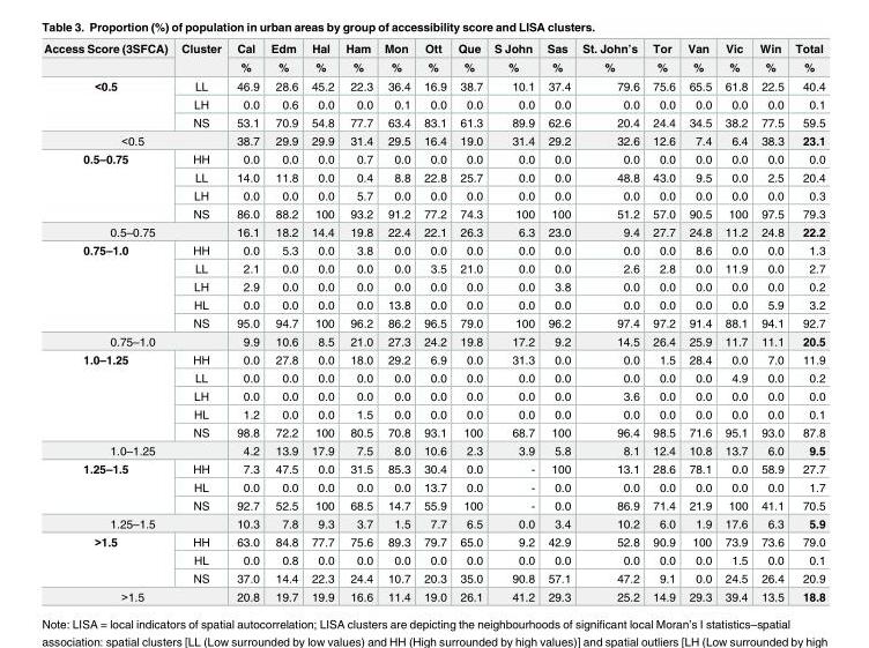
<table><thead><tr><td rowspan="2">Access Score (3SFCA)</td><td rowspan="2">Cluster</td><td rowspan="2">Cal %</td><td rowspan="2">Edm %</td><td rowspan="2">Hal %</td><td rowspan="2">Ham %</td><td rowspan="2">Mon %</td><td rowspan="2">Ott %</td><td rowspan="2">Que %</td><td rowspan="2">S John %</td><td rowspan="2">Sas %</td><td rowspan="2">St. John’s %</td><td rowspan="2">Tor %</td><td rowspan="2">Van %</td><td rowspan="2">Vic %</td><td rowspan="2">Win %</td><td rowspan="2">Total %</td></tr><tr></tr></thead><tbody><tr><td rowspan="3">&lt;0.5</td><td>LL</td><td>46.9</td><td>28.6</td><td>45.2</td><td>22.3</td><td>36.4</td><td>16.9</td><td>38.7</td><td>10.1</td><td>37.4</td><td>79.6</td><td>75.6</td><td>65.5</td><td>61.8</td><td>22.5</td><td>40.4</td></tr><tr><td>LH</td><td>0.0</td><td>0.6</td><td>0.0</td><td>0.0</td><td>0.1</td><td>0.0</td><td>0.0</td><td>0.0</td><td>0.0</td><td>0.0</td><td>0.0</td><td>0.0</td><td>0.0</td><td>0.0</td><td>0.1</td></tr><tr><td>NS</td><td>53.1</td><td>70.9</td><td>54.8</td><td>77.7</td><td>63.4</td><td>83.1</td><td>61.3</td><td>89.9</td><td>62.6</td><td>20.4</td><td>24.4</td><td>34.5</td><td>38.2</td><td>77.5</td><td>59.5</td></tr><tr><td colspan="2">&lt;0.5</td><td>38.7</td><td>29.9</td><td>29.9</td><td>31.4</td><td>29.5</td><td>16.4</td><td>19.0</td><td>31.4</td><td>29.2</td><td>32.6</td><td>12.6</td><td>7.4</td><td>6.4</td><td>38.3</td><td>23.1</td></tr><tr><td rowspan="4">0.5–0.75</td><td>HH</td><td>0.0</td><td>0.0</td><td>0.0</td><td>0.7</td><td>0.0</td><td>0.0</td><td>0.0</td><td>0.0</td><td>0.0</td><td>0.0</td><td>0.0</td><td>0.0</td><td>0.0</td><td>0.0</td><td>0.0</td></tr><tr><td>LL</td><td>14.0</td><td>11.8</td><td>0.0</td><td>0.4</td><td>8.8</td><td>22.8</td><td>25.7</td><td>0.0</td><td>0.0</td><td>48.8</td><td>43.0</td><td>9.5</td><td>0.0</td><td>2.5</td><td>20.4</td></tr><tr><td>LH</td><td>0.0</td><td>0.0</td><td>0.0</td><td>5.7</td><td>0.0</td><td>0.0</td><td>0.0</td><td>0.0</td><td>0.0</td><td>0.0</td><td>0.0</td><td>0.0</td><td>0.0</td><td>0.0</td><td>0.3</td></tr><tr><td>NS</td><td>86.0</td><td>88.2</td><td>100</td><td>93.2</td><td>91.2</td><td>77.2</td><td>74.3</td><td>100</td><td>100</td><td>51.2</td><td>57.0</td><td>90.5</td><td>100</td><td>97.5</td><td>79.3</td></tr><tr><td colspan="2">0.5–0.75</td><td>16.1</td><td>18.2</td><td>14.4</td><td>19.8</td><td>22.4</td><td>22.1</td><td>26.3</td><td>6.3</td><td>23.0</td><td>9.4</td><td>27.7</td><td>24.8</td><td>11.2</td><td>24.8</td><td>22.2</td></tr><tr><td rowspan="5">0.75–1.0</td><td>HH</td><td>0.0</td><td>5.3</td><td>0.0</td><td>3.8</td><td>0.0</td><td>0.0</td><td>0.0</td><td>0.0</td><td>0.0</td><td>0.0</td><td>0.0</td><td>8.6</td><td>0.0</td><td>0.0</td><td>1.3</td></tr><tr><td>LL</td><td>2.1</td><td>0.0</td><td>0.0</td><td>0.0</td><td>0.0</td><td>3.5</td><td>21.0</td><td>0.0</td><td>0.0</td><td>2.6</td><td>2.8</td><td>0.0</td><td>11.9</td><td>0.0</td><td>2.7</td></tr><tr><td>LH</td><td>2.9</td><td>0.0</td><td>0.0</td><td>0.0</td><td>0.0</td><td>0.0</td><td>0.0</td><td>0.0</td><td>3.8</td><td>0.0</td><td>0.0</td><td>0.0</td><td>0.0</td><td>0.0</td><td>0.2</td></tr><tr><td>HL</td><td>0.0</td><td>0.0</td><td>0.0</td><td>0.0</td><td>13.8</td><td>0.0</td><td>0.0</td><td>0.0</td><td>0.0</td><td>0.0</td><td>0.0</td><td>0.0</td><td>0.0</td><td>5.9</td><td>3.2</td></tr><tr><td>NS</td><td>95.0</td><td>94.7</td><td>100</td><td>96.2</td><td>86.2</td><td>96.5</td><td>79.0</td><td>100</td><td>96.2</td><td>97.4</td><td>97.2</td><td>91.4</td><td>88.1</td><td>94.1</td><td>92.7</td></tr><tr><td colspan="2">0.75–1.0</td><td>9.9</td><td>10.6</td><td>8.5</td><td>21.0</td><td>27.3</td><td>24.2</td><td>19.8</td><td>17.2</td><td>9.2</td><td>14.5</td><td>26.4</td><td>25.9</td><td>11.7</td><td>11.1</td><td>20.5</td></tr><tr><td rowspan="5">1.0–1.25</td><td>HH</td><td>0.0</td><td>27.8</td><td>0.0</td><td>18.0</td><td>29.2</td><td>6.9</td><td>0.0</td><td>31.3</td><td>0.0</td><td>0.0</td><td>1.5</td><td>28.4</td><td>0.0</td><td>7.0</td><td>11.9</td></tr><tr><td>LL</td><td>0.0</td><td>0.0</td><td>0.0</td><td>0.0</td><td>0.0</td><td>0.0</td><td>0.0</td><td>0.0</td><td>0.0</td><td>0.0</td><td>0.0</td><td>0.0</td><td>4.9</td><td>0.0</td><td>0.2</td></tr><tr><td>LH</td><td>0.0</td><td>0.0</td><td>0.0</td><td>0.0</td><td>0.0</td><td>0.0</td><td>0.0</td><td>0.0</td><td>0.0</td><td>3.6</td><td>0.0</td><td>0.0</td><td>0.0</td><td>0.0</td><td>0.0</td></tr><tr><td>HL</td><td>1.2</td><td>0.0</td><td>0.0</td><td>1.5</td><td>0.0</td><td>0.0</td><td>0.0</td><td>0.0</td><td>0.0</td><td>0.0</td><td>0.0</td><td>0.0</td><td>0.0</td><td>0.0</td><td>0.1</td></tr><tr><td>NS</td><td>98.8</td><td>72.2</td><td>100</td><td>80.5</td><td>70.8</td><td>93.1</td><td>100</td><td>68.7</td><td>100</td><td>96.4</td><td>98.5</td><td>71.6</td><td>95.1</td><td>93.0</td><td>87.8</td></tr><tr><td colspan="2">1.0–1.25</td><td>4.2</td><td>13.9</td><td>17.9</td><td>7.5</td><td>8.0</td><td>10.6</td><td>2.3</td><td>3.9</td><td>5.8</td><td>8.1</td><td>12.4</td><td>10.8</td><td>13.7</td><td>6.0</td><td>9.5</td></tr><tr><td rowspan="3">1.25–1.5</td><td>HH</td><td>7.3</td><td>47.5</td><td>0.0</td><td>31.5</td><td>85.3</td><td>30.4</td><td>0.0</td><td>-</td><td>100</td><td>13.1</td><td>28.6</td><td>78.1</td><td>0.0</td><td>58.9</td><td>27.7</td></tr><tr><td>HL</td><td>0.0</td><td>0.0</td><td>0.0</td><td>0.0</td><td>0.0</td><td>13.7</td><td>0.0</td><td>-</td><td>0.0</td><td>0.0</td><td>0.0</td><td>0.0</td><td>0.0</td><td>0.0</td><td>1.7</td></tr><tr><td>NS</td><td>92.7</td><td>52.5</td><td>100</td><td>68.5</td><td>14.7</td><td>55.9</td><td>100</td><td>-</td><td>0.0</td><td>86.9</td><td>71.4</td><td>21.9</td><td>100</td><td>41.1</td><td>70.5</td></tr><tr><td colspan="2">1.25–1.5</td><td>10.3</td><td>7.8</td><td>9.3</td><td>3.7</td><td>1.5</td><td>7.7</td><td>6.5</td><td>0.0</td><td>3.4</td><td>10.2</td><td>6.0</td><td>1.9</td><td>17.6</td><td>6.3</td><td>5.9</td></tr><tr><td rowspan="3">&gt;1.5</td><td>HH</td><td>63.0</td><td>84.8</td><td>77.7</td><td>75.6</td><td>89.3</td><td>79.7</td><td>65.0</td><td>9.2</td><td>42.9</td><td>52.8</td><td>90.9</td><td>100</td><td>73.9</td><td>73.6</td><td>79.0</td></tr><tr><td>HL</td><td>0.0</td><td>0.8</td><td>0.0</td><td>0.0</td><td>0.0</td><td>0.0</td><td>0.0</td><td>0.0</td><td>0.0</td><td>0.0</td><td>0.0</td><td>0.0</td><td>1.5</td><td>0.0</td><td>0.1</td></tr><tr><td>NS</td><td>37.0</td><td>14.4</td><td>22.3</td><td>24.4</td><td>10.7</td><td>20.3</td><td>35.0</td><td>90.8</td><td>57.1</td><td>47.2</td><td>9.1</td><td>0.0</td><td>24.5</td><td>26.4</td><td>20.9</td></tr><tr><td colspan="2">&gt;1.5</td><td>20.8</td><td>19.7</td><td>19.9</td><td>16.6</td><td>11.4</td><td>19.0</td><td>26.1</td><td>41.2</td><td>29.3</td><td>25.2</td><td>14.9</td><td>29.3</td><td>39.4</td><td>13.5</td><td>18.8</td></tr></tbody></table>